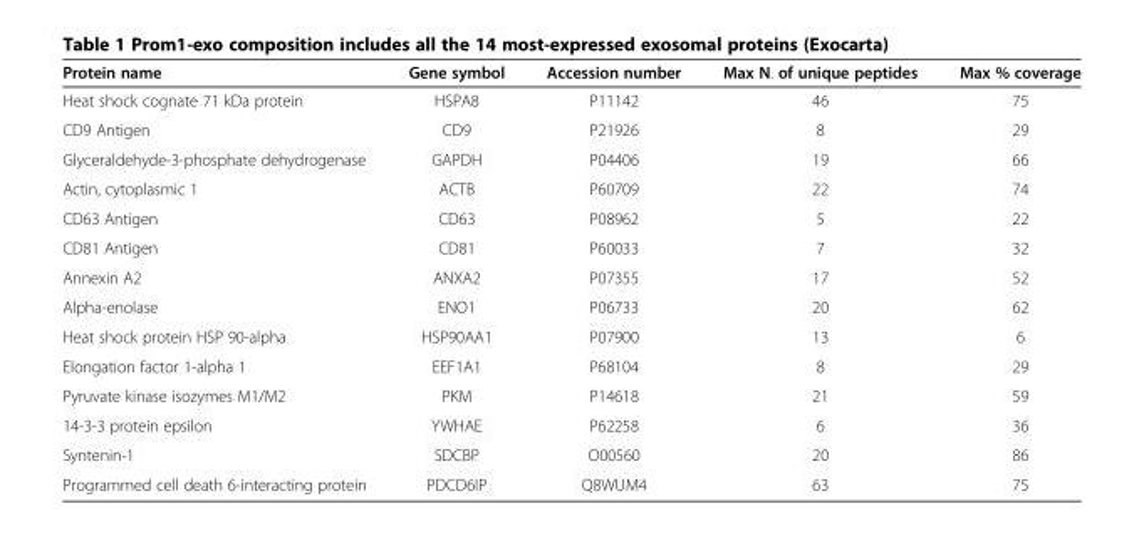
<table><thead><tr><td>Protein name</td><td>Gene symbol</td><td>Accession number</td><td>Max N. of unique peptides</td><td>Max % coverage</td></tr></thead><tbody><tr><td>Heat shock cognate 71 kDa protein</td><td>HSPA8</td><td>P11142</td><td>46</td><td>75</td></tr><tr><td>CD9 Antigen</td><td>CD9</td><td>P21926</td><td>8</td><td>29</td></tr><tr><td>Glyceraldehyde-3-phosphate dehydrogenase</td><td>GAPDH</td><td>P04406</td><td>19</td><td>66</td></tr><tr><td>Actin, cytoplasmic 1</td><td>ACTB</td><td>P60709</td><td>22</td><td>74</td></tr><tr><td>CD63 Antigen</td><td>CD63</td><td>P08962</td><td>5</td><td>22</td></tr><tr><td>CD81 Antigen</td><td>CD81</td><td>P60033</td><td>7</td><td>32</td></tr><tr><td>Annexin A2</td><td>ANXA2</td><td>P07355</td><td>17</td><td>52</td></tr><tr><td>Alpha-enolase</td><td>ENO1</td><td>P06733</td><td>20</td><td>62</td></tr><tr><td>Heat shock protein HSP 90-alpha</td><td>HSP90AA1</td><td>P07900</td><td>13</td><td>6</td></tr><tr><td>Elongation factor 1-alpha 1</td><td>EEF1A1</td><td>P68104</td><td>8</td><td>29</td></tr><tr><td>Pyruvate kinase isozymes M1/M2</td><td>PKM</td><td>P14618</td><td>21</td><td>59</td></tr><tr><td>14-3-3 protein epsilon</td><td>YWHAE</td><td>P62258</td><td>6</td><td>36</td></tr><tr><td>Syntenin-1</td><td>SDCBP</td><td>O00560</td><td>20</td><td>86</td></tr><tr><td>Programmed cell death 6-interacting protein</td><td>PDCD6IP</td><td>Q8WUM4</td><td>63</td><td>75</td></tr></tbody></table>